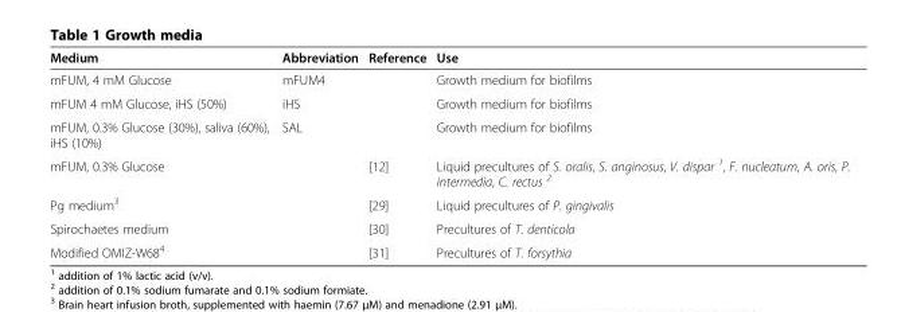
<table><thead><tr><td>Medium</td><td>Abbreviation</td><td>Reference</td><td>Use</td></tr></thead><tbody><tr><td>mFUM, 4 mM Glucose</td><td>mFUM4</td><td></td><td>Growth medium for biofilms</td></tr><tr><td>mFUM 4 mM Glucose, iHS (50%)</td><td>iHS</td><td></td><td>Growth medium for biofilms</td></tr><tr><td>mFUM, 0.3% Glucose (30%), saliva (60%), iHS (10%)</td><td>SAL</td><td></td><td>Growth medium for biofilms</td></tr><tr><td>mFUM, 0.3% Glucose</td><td></td><td>[12]</td><td>Liquid precultures of S. oralis, S. anginosus, V. dispar <sup>1</sup>, F. nucleatum, A. oris, P. intermedia, C. rectus <sup>2</sup></td></tr><tr><td>Pg medium<sup>3</sup></td><td></td><td>[29]</td><td>Liquid precultures of P. gingivalis</td></tr><tr><td>Spirochaetes medium</td><td></td><td>[30]</td><td>Precultures of T. denticola</td></tr><tr><td>Modified OMIZ-W68<sup>4</sup></td><td></td><td>[31]</td><td>Precultures of T. forsythia</td></tr></tbody></table>